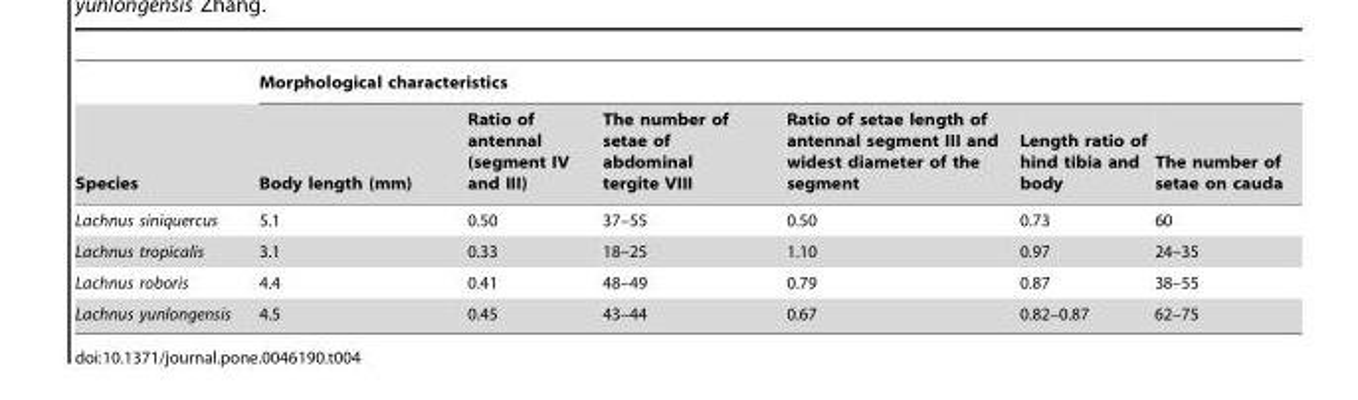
<table><thead><tr><td rowspan="2">Species</td><td colspan="6">Morphological characteristics</td></tr><tr><td>Body length (mm)</td><td>Ratio of antennal (segment IV and III)</td><td>The number of setae of abdominal tergite VIII</td><td>Ratio of setae length of antennal segment III and widest diameter of the segment</td><td>Length ratio of hind tibia and body</td><td>The number of setae on cauda</td></tr></thead><tbody><tr><td>Lachnus siniquercus</td><td>5.1</td><td>0.50</td><td>37–55</td><td>0.50</td><td>0.73</td><td>60</td></tr><tr><td>Lachnus tropicalis</td><td>3.1</td><td>0.33</td><td>18–25</td><td>1.10</td><td>0.97</td><td>24–35</td></tr><tr><td>Lachnus roboris</td><td>4.4</td><td>0.41</td><td>48–49</td><td>0.79</td><td>0.87</td><td>38–55</td></tr><tr><td>Lachnus yunlongensis</td><td>4.5</td><td>0.45</td><td>43–44</td><td>0.67</td><td>0.82–0.87</td><td>62–75</td></tr></tbody></table>